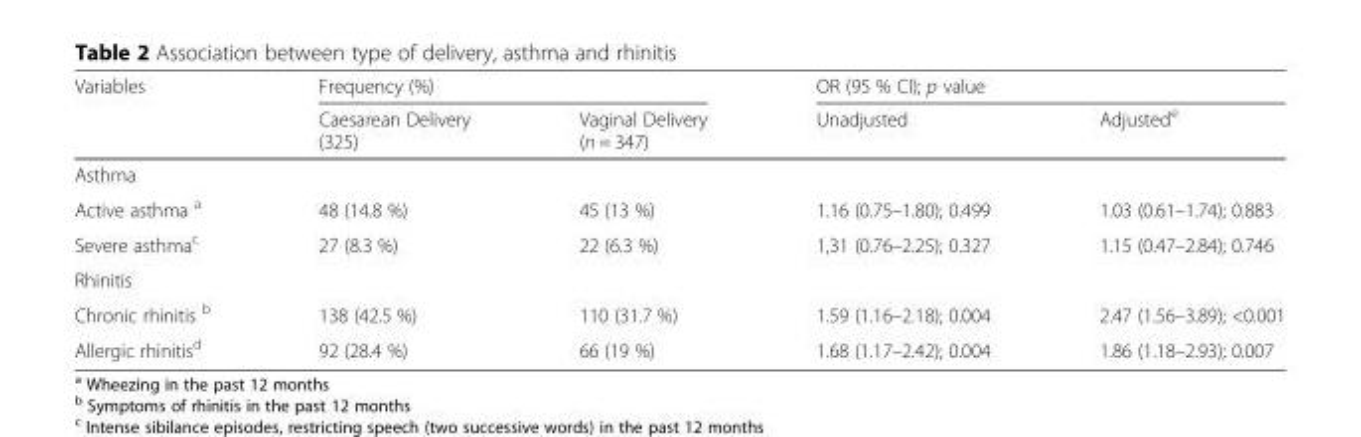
<table><thead><tr><td rowspan="2">Variables</td><td colspan="2">Frequency (%)</td><td colspan="2">OR (95 % CI); p value</td></tr><tr><td>Caesarean Delivery (325)</td><td>Vaginal Delivery (n = 347)</td><td>Unadjusted</td><td>Adjusted<sup>e</sup></td></tr></thead><tbody><tr><td colspan="5">Asthma</td></tr><tr><td>Active asthma <sup>a</sup></td><td>48 (14.8 %)</td><td>45 (13 %)</td><td>1.16 (0.75–1.80); 0.499</td><td>1.03 (0.61–1.74); 0.883</td></tr><tr><td>Severe asthma<sup>c</sup></td><td>27 (8.3 %)</td><td>22 (6.3 %)</td><td>1,31 (0.76–2.25); 0.327</td><td>1.15 (0.47–2.84); 0.746</td></tr><tr><td colspan="5">Rhinitis</td></tr><tr><td>Chronic rhinitis <sup>b</sup></td><td>138 (42.5 %)</td><td>110 (31.7 %)</td><td>1.59 (1.16–2.18); 0.004</td><td>2.47 (1.56–3.89); &lt;0.001</td></tr><tr><td>Allergic rhinitis<sup>d</sup></td><td>92 (28.4 %)</td><td>66 (19 %)</td><td>1.68 (1.17–2.42); 0.004</td><td>1.86 (1.18–2.93); 0.007</td></tr></tbody></table>